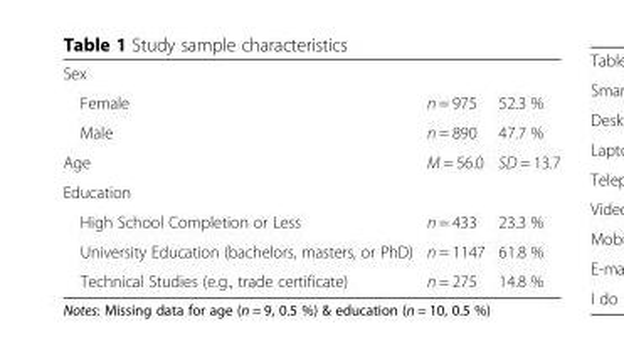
<table><tbody><tr><td colspan="3">Sex</td></tr><tr><td>Female</td><td>n = 975</td><td>52.3 %</td></tr><tr><td>Male</td><td>n = 890</td><td>47.7 %</td></tr><tr><td>Age</td><td>M = 56.0</td><td>SD = 13.7</td></tr><tr><td colspan="3">Education</td></tr><tr><td>High School Completion or Less</td><td>n = 433</td><td>23.3 %</td></tr><tr><td>University Education (bachelors, masters, or PhD)</td><td>n = 1147</td><td>61.8 %</td></tr><tr><td>Technical Studies (e.g., trade certificate)</td><td>n = 275</td><td>14.8 %</td></tr></tbody></table>